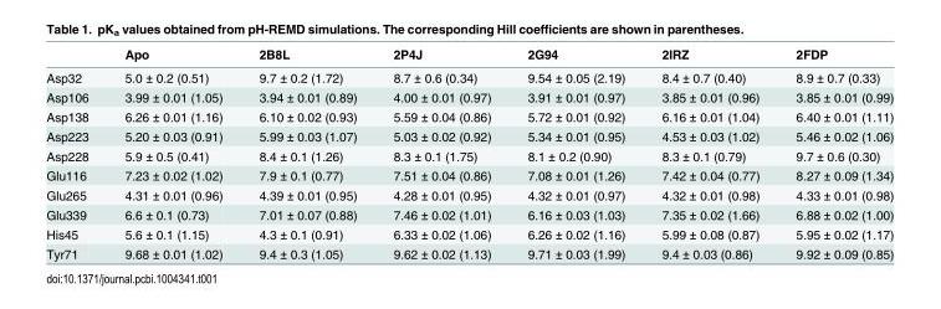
<table><thead><tr><td></td><td>Apo</td><td>2B8L</td><td>2P4J</td><td>2G94</td><td>2IRZ</td><td>2FDP</td></tr></thead><tbody><tr><td>Asp32</td><td>5.0 ± 0.2 (0.51)</td><td>9.7 ± 0.2 (1.72)</td><td>8.7 ± 0.6 (0.34)</td><td>9.54 ± 0.05 (2.19)</td><td>8.4 ± 0.7 (0.40)</td><td>8.9 ± 0.7 (0.33)</td></tr><tr><td>Asp106</td><td>3.99 ± 0.01 (1.05)</td><td>3.94 ± 0.01 (0.89)</td><td>4.00 ± 0.01 (0.97)</td><td>3.91 ± 0.01 (0.97)</td><td>3.85 ± 0.01 (0.96)</td><td>3.85 ± 0.01 (0.99)</td></tr><tr><td>Asp138</td><td>6.26 ± 0.01 (1.16)</td><td>6.10 ± 0.02 (0.93)</td><td>5.59 ± 0.04 (0.86)</td><td>5.72 ± 0.01 (0.92)</td><td>6.16 ± 0.01 (1.04)</td><td>6.40 ± 0.01 (1.11)</td></tr><tr><td>Asp223</td><td>5.20 ± 0.03 (0.91)</td><td>5.99 ± 0.03 (1.07)</td><td>5.03 ± 0.02 (0.92)</td><td>5.34 ± 0.01 (0.95)</td><td>4.53 ± 0.03 (1.02)</td><td>5.46 ± 0.02 (1.06)</td></tr><tr><td>Asp228</td><td>5.9 ± 0.5 (0.41)</td><td>8.4 ± 0.1 (1.26)</td><td>8.3 ± 0.1 (1.75)</td><td>8.1 ± 0.2 (0.90)</td><td>8.3 ± 0.1 (0.79)</td><td>9.7 ± 0.6 (0.30)</td></tr><tr><td>Glu116</td><td>7.23 ± 0.02 (1.02)</td><td>7.9 ± 0.1 (0.77)</td><td>7.51 ± 0.04 (0.86)</td><td>7.08 ± 0.01 (1.26)</td><td>7.42 ± 0.04 (0.77)</td><td>8.27 ± 0.09 (1.34)</td></tr><tr><td>Glu265</td><td>4.31 ± 0.01 (0.96)</td><td>4.39 ± 0.01 (0.95)</td><td>4.28 ± 0.01 (0.95)</td><td>4.32 ± 0.01 (0.97)</td><td>4.32 ± 0.01 (0.98)</td><td>4.33 ± 0.01 (0.98)</td></tr><tr><td>Glu339</td><td>6.6 ± 0.1 (0.73)</td><td>7.01 ± 0.07 (0.88)</td><td>7.46 ± 0.02 (1.01)</td><td>6.16 ± 0.03 (1.03)</td><td>7.35 ± 0.02 (1.66)</td><td>6.88 ± 0.02 (1.00)</td></tr><tr><td>His45</td><td>5.6 ± 0.1 (1.15)</td><td>4.3 ± 0.1 (0.91)</td><td>6.33 ± 0.02 (1.06)</td><td>6.26 ± 0.02 (1.16)</td><td>5.99 ± 0.08 (0.87)</td><td>5.95 ± 0.02 (1.17)</td></tr><tr><td>Tyr71</td><td>9.68 ± 0.01 (1.02)</td><td>9.4 ± 0.3 (1.05)</td><td>9.62 ± 0.02 (1.13)</td><td>9.71 ± 0.03 (1.99)</td><td>9.4 ± 0.03 (0.86)</td><td>9.92 ± 0.09 (0.85)</td></tr></tbody></table>